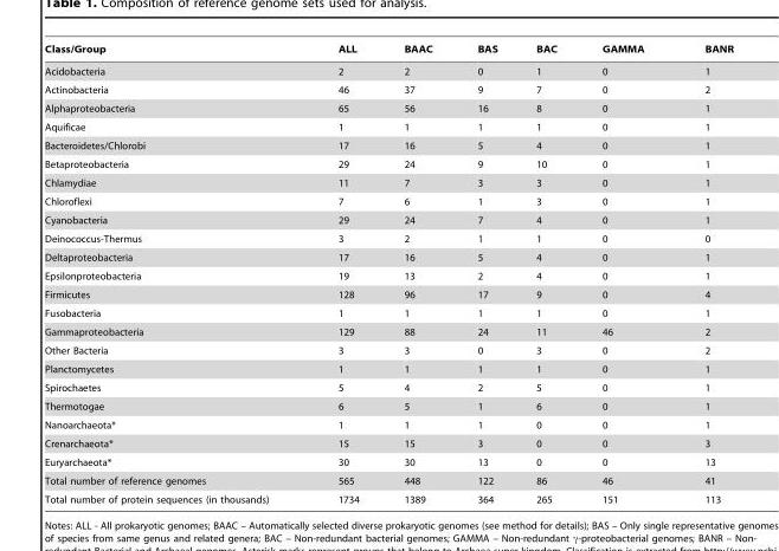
<table><thead><tr><td>Class/Group</td><td>ALL</td><td>BAAC</td><td>BAS</td><td>BAC</td><td>GAMMA</td><td>BANR</td></tr></thead><tbody><tr><td>Acidobacteria</td><td>2</td><td>2</td><td>0</td><td>1</td><td>0</td><td>1</td></tr><tr><td>Actinobacteria</td><td>46</td><td>37</td><td>9</td><td>7</td><td>0</td><td>2</td></tr><tr><td>Alphaproteobacteria</td><td>65</td><td>56</td><td>16</td><td>8</td><td>0</td><td>1</td></tr><tr><td>Aquificae</td><td>1</td><td>1</td><td>1</td><td>1</td><td>0</td><td>1</td></tr><tr><td>Bacteroidetes/Chlorobi</td><td>17</td><td>16</td><td>5</td><td>4</td><td>0</td><td>1</td></tr><tr><td>Betaproteobacteria</td><td>29</td><td>24</td><td>9</td><td>10</td><td>0</td><td>1</td></tr><tr><td>Chlamydiae</td><td>11</td><td>7</td><td>3</td><td>3</td><td>0</td><td>1</td></tr><tr><td>Chloroflexi</td><td>7</td><td>6</td><td>1</td><td>3</td><td>0</td><td>1</td></tr><tr><td>Cyanobacteria</td><td>29</td><td>24</td><td>7</td><td>4</td><td>0</td><td>1</td></tr><tr><td>Deinococcus-Thermus</td><td>3</td><td>2</td><td>1</td><td>1</td><td>0</td><td>0</td></tr><tr><td>Deltaproteobacteria</td><td>17</td><td>16</td><td>5</td><td>4</td><td>0</td><td>1</td></tr><tr><td>Epsilonproteobacteria</td><td>19</td><td>13</td><td>2</td><td>4</td><td>0</td><td>1</td></tr><tr><td>Firmicutes</td><td>128</td><td>96</td><td>17</td><td>9</td><td>0</td><td>4</td></tr><tr><td>Fusobacteria</td><td>1</td><td>1</td><td>1</td><td>1</td><td>0</td><td>1</td></tr><tr><td>Gammaproteobacteria</td><td>129</td><td>88</td><td>24</td><td>11</td><td>46</td><td>2</td></tr><tr><td>Other Bacteria</td><td>3</td><td>3</td><td>0</td><td>3</td><td>0</td><td>2</td></tr><tr><td>Planctomycetes</td><td>1</td><td>1</td><td>1</td><td>1</td><td>0</td><td>1</td></tr><tr><td>Spirochaetes</td><td>5</td><td>4</td><td>2</td><td>5</td><td>0</td><td>1</td></tr><tr><td>Thermotogae</td><td>6</td><td>5</td><td>1</td><td>6</td><td>0</td><td>1</td></tr><tr><td>Nanoarchaeota*</td><td>1</td><td>1</td><td>1</td><td>0</td><td>0</td><td>1</td></tr><tr><td>Crenarchaeota*</td><td>15</td><td>15</td><td>3</td><td>0</td><td>0</td><td>3</td></tr><tr><td>Euryarchaeota*</td><td>30</td><td>30</td><td>13</td><td>0</td><td>0</td><td>13</td></tr><tr><td>Total number of reference genomes</td><td>565</td><td>448</td><td>122</td><td>86</td><td>46</td><td>41</td></tr><tr><td>Total number of protein sequences (in thousands)</td><td>1734</td><td>1389</td><td>364</td><td>265</td><td>151</td><td>113</td></tr></tbody></table>